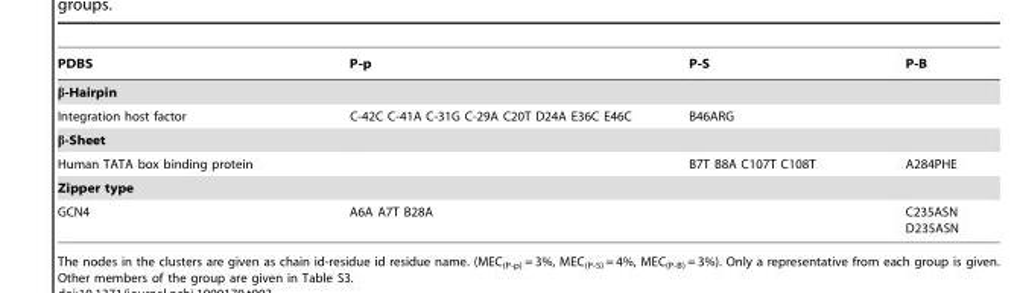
<table><thead><tr><td>PDBS</td><td>P-p</td><td>P-S</td><td>P-B</td></tr></thead><tbody><tr><td colspan="4">β-Hairpin</td></tr><tr><td>Integration host factor</td><td>C-42C C-41A C-31G C-29A C20T D24A E36C E46C</td><td>B46ARG</td><td></td></tr><tr><td colspan="4">β-Sheet</td></tr><tr><td>Human TATA box binding protein</td><td></td><td>B7T B8A C107T C108T</td><td>A284PHE</td></tr><tr><td colspan="4">Zipper type</td></tr><tr><td>GCN4</td><td>A6A A7T B28A</td><td></td><td>C235ASN D235ASN</td></tr></tbody></table>